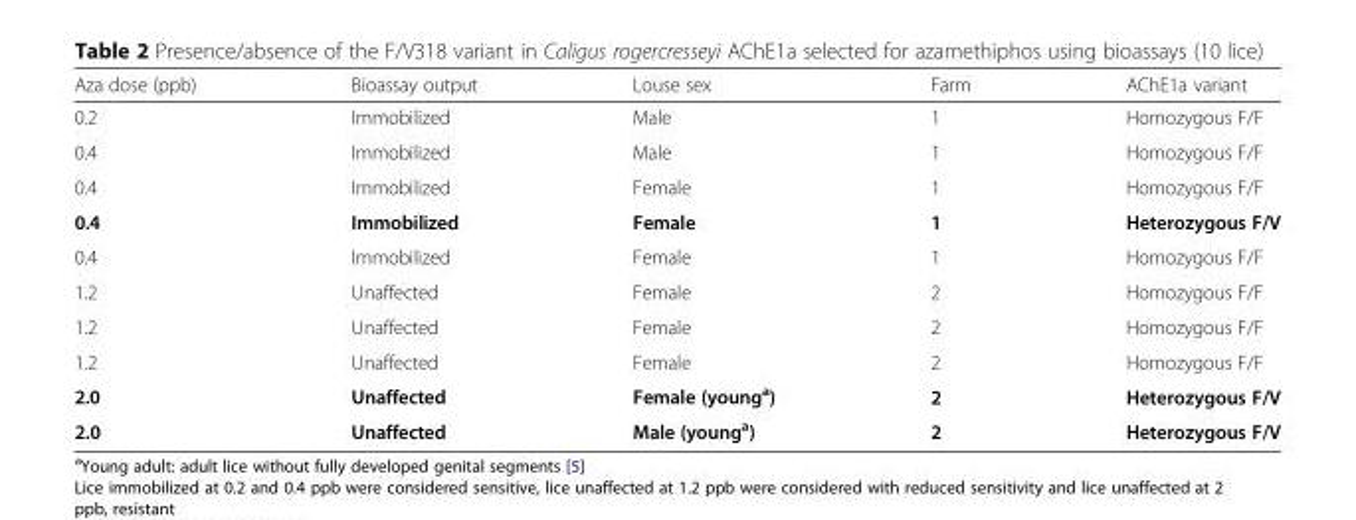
<table><thead><tr><td>Aza dose (ppb)</td><td>Bioassay output</td><td>Louse sex</td><td>Farm</td><td>AChE1a variant</td></tr></thead><tbody><tr><td>0.2</td><td>Immobilized</td><td>Male</td><td>1</td><td>Homozygous F/F</td></tr><tr><td>0.4</td><td>Immobilized</td><td>Male</td><td>1</td><td>Homozygous F/F</td></tr><tr><td>0.4</td><td>Immobilized</td><td>Female</td><td>1</td><td>Homozygous F/F</td></tr><tr><td>0.4</td><td>Immobilized</td><td>Female</td><td>1</td><td>Heterozygous F/V</td></tr><tr><td>0.4</td><td>Immobilized</td><td>Female</td><td>1</td><td>Homozygous F/F</td></tr><tr><td>1.2</td><td>Unaffected</td><td>Female</td><td>2</td><td>Homozygous F/F</td></tr><tr><td>1.2</td><td>Unaffected</td><td>Female</td><td>2</td><td>Homozygous F/F</td></tr><tr><td>1.2</td><td>Unaffected</td><td>Female</td><td>2</td><td>Homozygous F/F</td></tr><tr><td>2.0</td><td>Unaffected</td><td>Female (young<sup>a</sup>)</td><td>2</td><td>Heterozygous F/V</td></tr><tr><td>2.0</td><td>Unaffected</td><td>Male (young<sup>a</sup>)</td><td>2</td><td>Heterozygous F/V</td></tr></tbody></table>